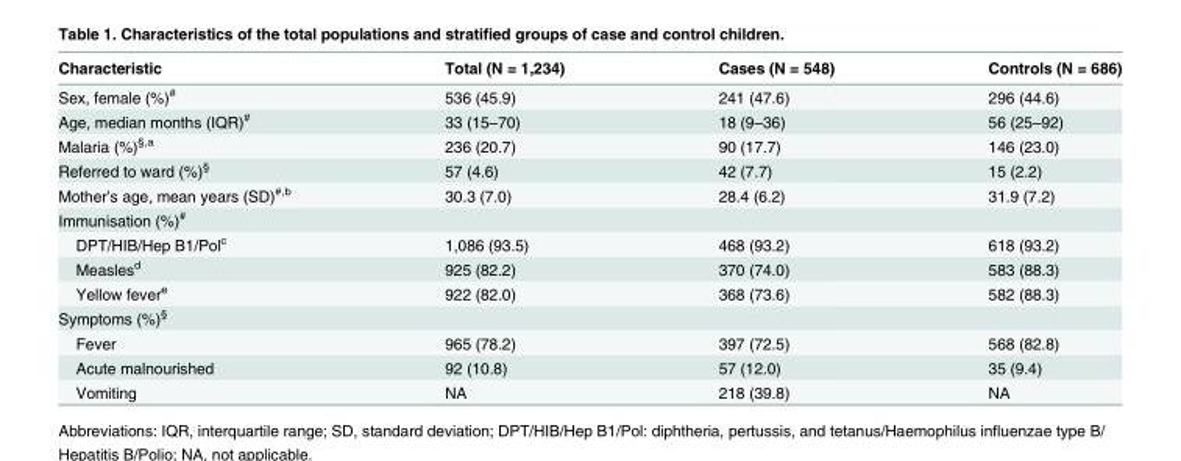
<table><thead><tr><td>Characteristic</td><td>Total (N = 1,234)</td><td>Cases (N = 548)</td><td>Controls (N = 686)</td></tr></thead><tbody><tr><td>Sex, female (%)<sup>#</sup></td><td>536 (45.9)</td><td>241 (47.6)</td><td>296 (44.6)</td></tr><tr><td>Age, median months (IQR)<sup>#</sup></td><td>33 (15–70)</td><td>18 (9–36)</td><td>56 (25–92)</td></tr><tr><td>Malaria (%)<sup>§,a</sup></td><td>236 (20.7)</td><td>90 (17.7)</td><td>146 (23.0)</td></tr><tr><td>Referred to ward (%)<sup>§</sup></td><td>57 (4.6)</td><td>42 (7.7)</td><td>15 (2.2)</td></tr><tr><td>Mother’s age, mean years (SD)<sup>#,b</sup></td><td>30.3 (7.0)</td><td>28.4 (6.2)</td><td>31.9 (7.2)</td></tr><tr><td colspan="4">Immunisation (%)<sup>#</sup></td></tr><tr><td>DPT/HIB/Hep B1/Pol<sup>c</sup></td><td>1,086 (93.5)</td><td>468 (93.2)</td><td>618 (93.2)</td></tr><tr><td>Measles<sup>d</sup></td><td>925 (82.2)</td><td>370 (74.0)</td><td>583 (88.3)</td></tr><tr><td>Yellow fever<sup>e</sup></td><td>922 (82.0)</td><td>368 (73.6)</td><td>582 (88.3)</td></tr><tr><td colspan="4">Symptoms (%)<sup>§</sup></td></tr><tr><td>Fever</td><td>965 (78.2)</td><td>397 (72.5)</td><td>568 (82.8)</td></tr><tr><td>Acute malnourished</td><td>92 (10.8)</td><td>57 (12.0)</td><td>35 (9.4)</td></tr><tr><td>Vomiting</td><td>NA</td><td>218 (39.8)</td><td>NA</td></tr></tbody></table>